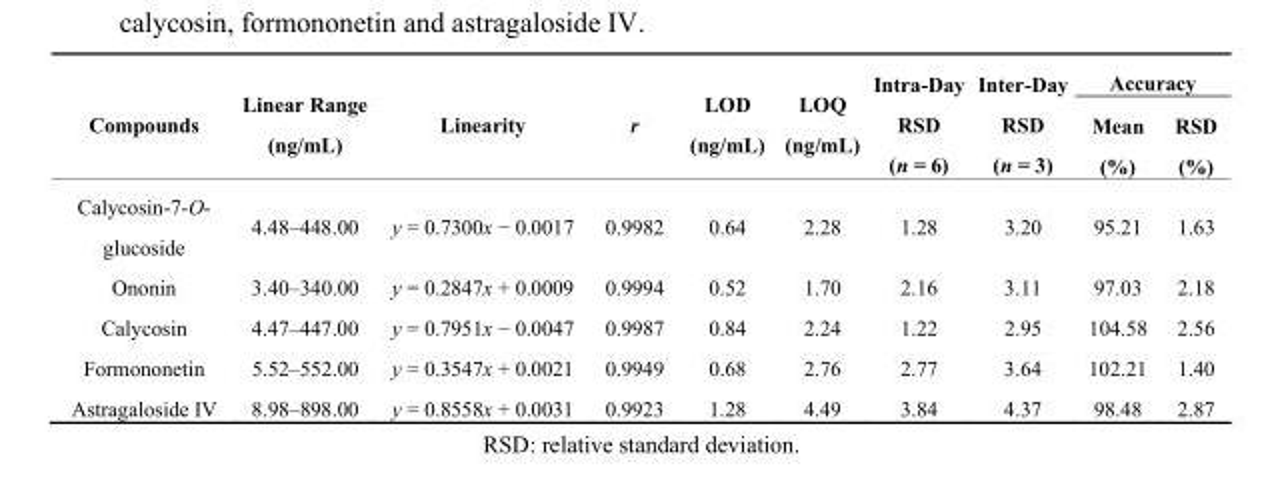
<table><thead><tr><td rowspan="2">Compounds</td><td rowspan="2">Linear Range (ng/mL)</td><td rowspan="2">Linearity</td><td rowspan="2">r</td><td rowspan="2">LOD (ng/mL)</td><td rowspan="2">LOQ (ng/mL)</td><td rowspan="2">Intra-Day RSD (n = 6)</td><td rowspan="2">Inter-Day RSD (n = 3)</td><td colspan="2">Accuracy</td></tr><tr><td>Mean (%)</td><td>RSD (%)</td></tr></thead><tbody><tr><td>Calycosin-7-O- glucoside</td><td>4.48–448.00</td><td>y = 0.7300x − 0.0017</td><td>0.9982</td><td>0.64</td><td>2.28</td><td>1.28</td><td>3.20</td><td>95.21</td><td>1.63</td></tr><tr><td>Ononin</td><td>3.40–340.00</td><td>y = 0.2847x + 0.0009</td><td>0.9994</td><td>0.52</td><td>1.70</td><td>2.16</td><td>3.11</td><td>97.03</td><td>2.18</td></tr><tr><td>Calycosin</td><td>4.47–447.00</td><td>y = 0.7951x − 0.0047</td><td>0.9987</td><td>0.84</td><td>2.24</td><td>1.22</td><td>2.95</td><td>104.58</td><td>2.56</td></tr><tr><td>Formononetin</td><td>5.52–552.00</td><td>y = 0.3547x + 0.0021</td><td>0.9949</td><td>0.68</td><td>2.76</td><td>2.77</td><td>3.64</td><td>102.21</td><td>1.40</td></tr><tr><td>Astragaloside IV</td><td>8.98–898.00</td><td>y = 0.8558x + 0.0031</td><td>0.9923</td><td>1.28</td><td>4.49</td><td>3.84</td><td>4.37</td><td>98.48</td><td>2.87</td></tr></tbody></table>